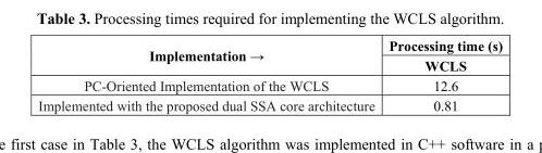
<table><thead><tr><td rowspan="2">Implementation →</td><td rowspan="2">Processing time (s) WCLS</td></tr><tr></tr></thead><tbody><tr><td>PC-Oriented Implementation of the WCLS</td><td>12.6</td></tr><tr><td>Implemented with the proposed dual SSA core architecture</td><td>0.81</td></tr></tbody></table>